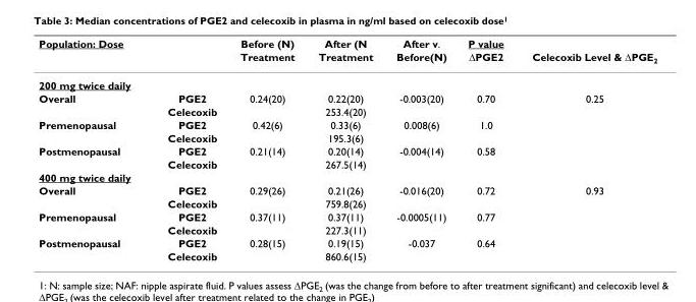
<table><thead><tr><td rowspan="2">Population: Dose</td><td rowspan="2"></td><td rowspan="2">Before (N) Treatment</td><td rowspan="2">After (N Treatment</td><td rowspan="2">After v. Before(N)</td><td rowspan="2">P value ΔPGE2</td><td rowspan="2">Celecoxib Level &amp; ΔPGE<sub>2</sub></td></tr><tr></tr></thead><tbody><tr><td colspan="7">200 mg twice daily</td></tr><tr><td rowspan="2">Overall</td><td>PGE2</td><td>0.24(20)</td><td>0.22(20)</td><td>-0.003(20)</td><td>0.70</td><td>0.25</td></tr><tr><td>Celecoxib</td><td></td><td>253.4(20)</td><td></td><td></td><td></td></tr><tr><td rowspan="2">Premenopausal</td><td>PGE2</td><td>0.42(6)</td><td>0.33(6)</td><td>0.008(6)</td><td>1.0</td><td></td></tr><tr><td>Celecoxib</td><td></td><td>195.3(6)</td><td></td><td></td><td></td></tr><tr><td rowspan="2">Postmenopausal</td><td>PGE2</td><td>0.21(14)</td><td>0.20(14)</td><td>-0.004(14)</td><td>0.58</td><td></td></tr><tr><td>Celecoxib</td><td></td><td>267.5(14)</td><td></td><td></td><td></td></tr><tr><td colspan="7">400 mg twice daily</td></tr><tr><td rowspan="2">Overall</td><td>PGE2</td><td>0.29(26)</td><td>0.21(26)</td><td>-0.016(20)</td><td>0.72</td><td>0.93</td></tr><tr><td>Celecoxib</td><td></td><td>759.8(26)</td><td></td><td></td><td></td></tr><tr><td rowspan="2">Premenopausal</td><td>PGE2</td><td>0.37(11)</td><td>0.37(11)</td><td>-0.0005(11)</td><td>0.77</td><td></td></tr><tr><td>Celecoxib</td><td></td><td>227.3(11)</td><td></td><td></td><td></td></tr><tr><td rowspan="2">Postmenopausal</td><td>PGE2</td><td>0.28(15)</td><td>0.19(15)</td><td>-0.037</td><td>0.64</td><td></td></tr><tr><td>Celecoxib</td><td></td><td>860.6(15)</td><td></td><td></td><td></td></tr></tbody></table>